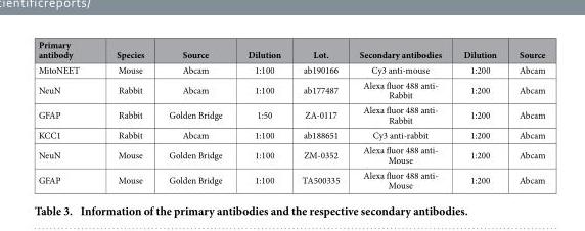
<table><thead><tr><td>Primary antibody</td><td>Species</td><td>Source</td><td>Dilution</td><td>Lot.</td><td>Secondary antibodies</td><td>Dilution</td><td>Source</td></tr></thead><tbody><tr><td>MitoNEET</td><td>Mouse</td><td>Abcam</td><td>1:100</td><td>ab190166</td><td>Cy3 anti-mouse</td><td>1:200</td><td>Abcam</td></tr><tr><td>NeuN</td><td>Rabbit</td><td>Abcam</td><td>1:100</td><td>ab177487</td><td>Alexa fluor 488 anti- Rabbit</td><td>1:200</td><td>Abcam</td></tr><tr><td>GFAP</td><td>Rabbit</td><td>Golden Bridge</td><td>1:50</td><td>ZA-0117</td><td>Alexa fluor 488 anti- Rabbit</td><td>1:200</td><td>Abcam</td></tr><tr><td>KCC1</td><td>Rabbit</td><td>Abcam</td><td>1:100</td><td>ab188651</td><td>Cy3 anti-rabbit</td><td>1:200</td><td>Abcam</td></tr><tr><td>NeuN</td><td>Mouse</td><td>Golden Bridge</td><td>1:100</td><td>ZM-0352</td><td>Alexa fluor 488 anti- Mouse</td><td>1:200</td><td>Abcam</td></tr><tr><td>GFAP</td><td>Mouse</td><td>Golden Bridge</td><td>1:100</td><td>TA500335</td><td>Alexa fluor 488 anti- Mouse</td><td>1:200</td><td>Abcam</td></tr></tbody></table>